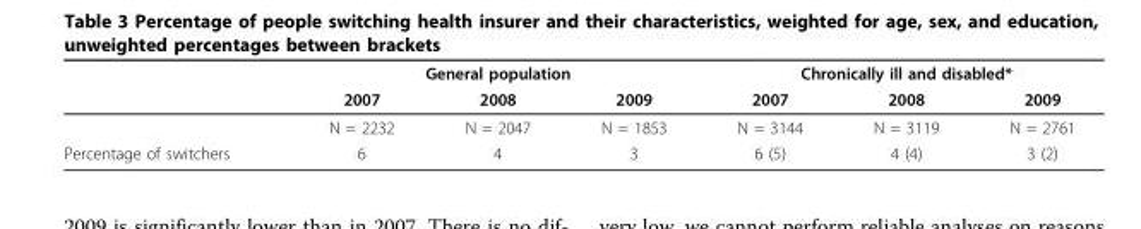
<table><thead><tr><td rowspan="2"></td><td colspan="3">General population</td><td colspan="3">Chronically ill and disabled*</td></tr><tr><td>2007</td><td>2008</td><td>2009</td><td>2007</td><td>2008</td><td>2009</td></tr></thead><tbody><tr><td></td><td>N = 2232</td><td>N = 2047</td><td>N = 1853</td><td>N = 3144</td><td>N = 3119</td><td>N = 2761</td></tr><tr><td>Percentage of switchers</td><td>6</td><td>4</td><td>3</td><td>6 (5)</td><td>4 (4)</td><td>3 (2)</td></tr></tbody></table>